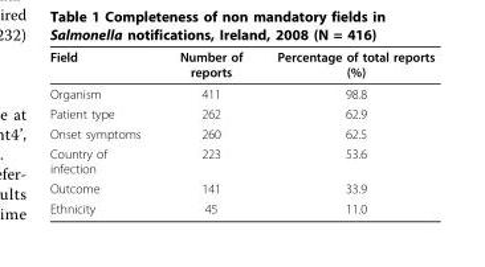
<table><thead><tr><td>Field</td><td>Number of reports</td><td>Percentage of total reports (%)</td></tr></thead><tbody><tr><td>Organism</td><td>411</td><td>98.8</td></tr><tr><td>Patient type</td><td>262</td><td>62.9</td></tr><tr><td>Onset symptoms</td><td>260</td><td>62.5</td></tr><tr><td>Country of infection</td><td>223</td><td>53.6</td></tr><tr><td>Outcome</td><td>141</td><td>33.9</td></tr><tr><td>Ethnicity</td><td>45</td><td>11.0</td></tr></tbody></table>